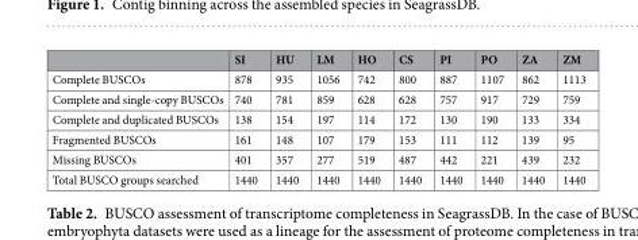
<table><thead><tr><td></td><td>SI</td><td>HU</td><td>LM</td><td>HO</td><td>CS</td><td>PI</td><td>PO</td><td>ZA</td><td>ZM</td></tr></thead><tbody><tr><td>Complete BUSCOs</td><td>878</td><td>935</td><td>1056</td><td>742</td><td>800</td><td>887</td><td>1107</td><td>862</td><td>1113</td></tr><tr><td>Complete and single-copy BUSCOs</td><td>740</td><td>781</td><td>859</td><td>628</td><td>628</td><td>757</td><td>917</td><td>729</td><td>759</td></tr><tr><td>Complete and duplicated BUSCOs</td><td>138</td><td>154</td><td>197</td><td>114</td><td>172</td><td>130</td><td>190</td><td>133</td><td>334</td></tr><tr><td>Fragmented BUSCOs</td><td>161</td><td>148</td><td>107</td><td>179</td><td>153</td><td>111</td><td>112</td><td>139</td><td>95</td></tr><tr><td>Missing BUSCOs</td><td>401</td><td>357</td><td>277</td><td>519</td><td>487</td><td>442</td><td>221</td><td>439</td><td>232</td></tr><tr><td>Total BUSCO groups searched</td><td>1440</td><td>1440</td><td>1440</td><td>1440</td><td>1440</td><td>1440</td><td>1440</td><td>1440</td><td>1440</td></tr></tbody></table>